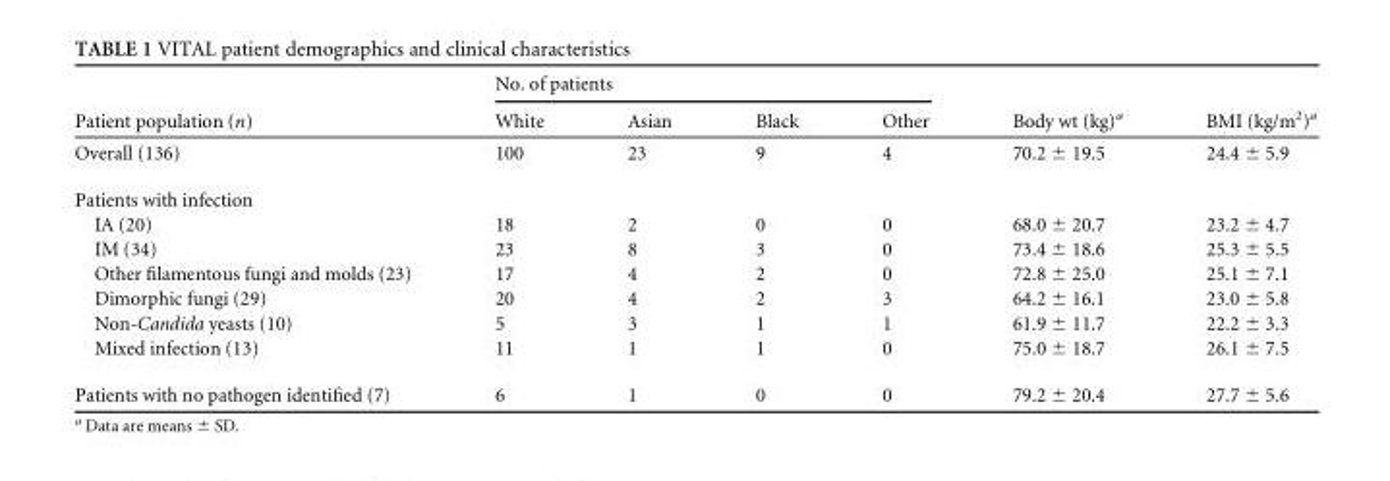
<table><thead><tr><td rowspan="2">Patient population (n)</td><td colspan="4">No. of patients</td><td rowspan="2">Body wt (kg)<sup>a</sup></td><td rowspan="2">BMI (kg/m<sup>2</sup>)<sup>a</sup></td></tr><tr><td>White</td><td>Asian</td><td>Black</td><td>Other</td></tr></thead><tbody><tr><td>Overall (136)</td><td>100</td><td>23</td><td>9</td><td>4</td><td>70.2 ± 19.5</td><td>24.4 ± 5.9</td></tr><tr><td colspan="7">Patients with infection</td></tr><tr><td>IA (20)</td><td>18</td><td>2</td><td>0</td><td>0</td><td>68.0 ± 20.7</td><td>23.2 ± 4.7</td></tr><tr><td>IM (34)</td><td>23</td><td>8</td><td>3</td><td>0</td><td>73.4 ± 18.6</td><td>25.3 ± 5.5</td></tr><tr><td>Other filamentous fungi and molds (23)</td><td>17</td><td>4</td><td>2</td><td>0</td><td>72.8 ± 25.0</td><td>25.1 ± 7.1</td></tr><tr><td>Dimorphic fungi (29)</td><td>20</td><td>4</td><td>2</td><td>3</td><td>64.2 ± 16.1</td><td>23.0 ± 5.8</td></tr><tr><td>Non-Candida yeasts (10)</td><td>5</td><td>3</td><td>1</td><td>1</td><td>61.9 ± 11.7</td><td>22.2 ± 3.3</td></tr><tr><td>Mixed infection (13)</td><td>11</td><td>1</td><td>1</td><td>0</td><td>75.0 ± 18.7</td><td>26.1 ± 7.5</td></tr><tr><td>Patients with no pathogen identified (7)</td><td>6</td><td>1</td><td>0</td><td>0</td><td>79.2 ± 20.4</td><td>27.7 ± 5.6</td></tr></tbody></table>